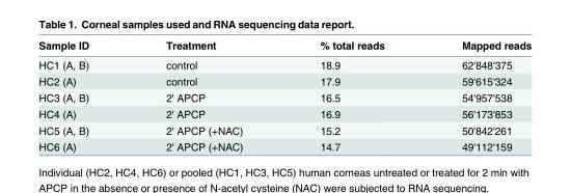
<table><thead><tr><td>Sample ID</td><td>Treatment</td><td>% total reads</td><td>Mapped reads</td></tr></thead><tbody><tr><td>HC1 (A, B)</td><td>control</td><td>18.9</td><td>62&#x27;848&#x27;375</td></tr><tr><td>HC2 (A)</td><td>control</td><td>17.9</td><td>59&#x27;615&#x27;324</td></tr><tr><td>HC3 (A, B)</td><td>2&#x27; APCP</td><td>16.5</td><td>54&#x27;957&#x27;538</td></tr><tr><td>HC4 (A)</td><td>2&#x27; APCP</td><td>16.9</td><td>56&#x27;173&#x27;853</td></tr><tr><td>HC5 (A, B)</td><td>2&#x27; APCP (+NAC)</td><td>15.2</td><td>50&#x27;842&#x27;261</td></tr><tr><td>HC6 (A)</td><td>2&#x27; APCP (+NAC)</td><td>14.7</td><td>49&#x27;112&#x27;159</td></tr></tbody></table>